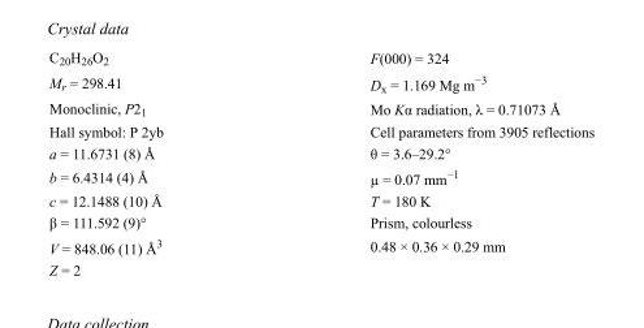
<table><tbody><tr><td>C<sub>20</sub>H<sub>26</sub>O<sub>2</sub></td><td>F(000) = 324</td></tr><tr><td>M<sub>r</sub> = 298.41</td><td>D<sub>x</sub> = 1.169 Mg m<sup>−3</sup></td></tr><tr><td>Monoclinic, P2<sub>1</sub></td><td>Mo Kα radiation, λ = 0.71073 Å</td></tr><tr><td>Hall symbol: P 2yb</td><td>Cell parameters from 3905 reflections</td></tr><tr><td>a = 11.6731 (8) Å</td><td>θ = 3.6–29.2°</td></tr><tr><td>b = 6.4314 (4) Å</td><td>µ = 0.07 mm<sup>−1</sup></td></tr><tr><td>c = 12.1488 (10) Å</td><td>T = 180 K</td></tr><tr><td>β = 111.592 (9)°</td><td>Prism, colourless</td></tr><tr><td>V = 848.06 (11) Å<sup>3</sup></td><td>0.48 × 0.36 × 0.29 mm</td></tr><tr><td>Z = 2</td><td></td></tr></tbody></table>